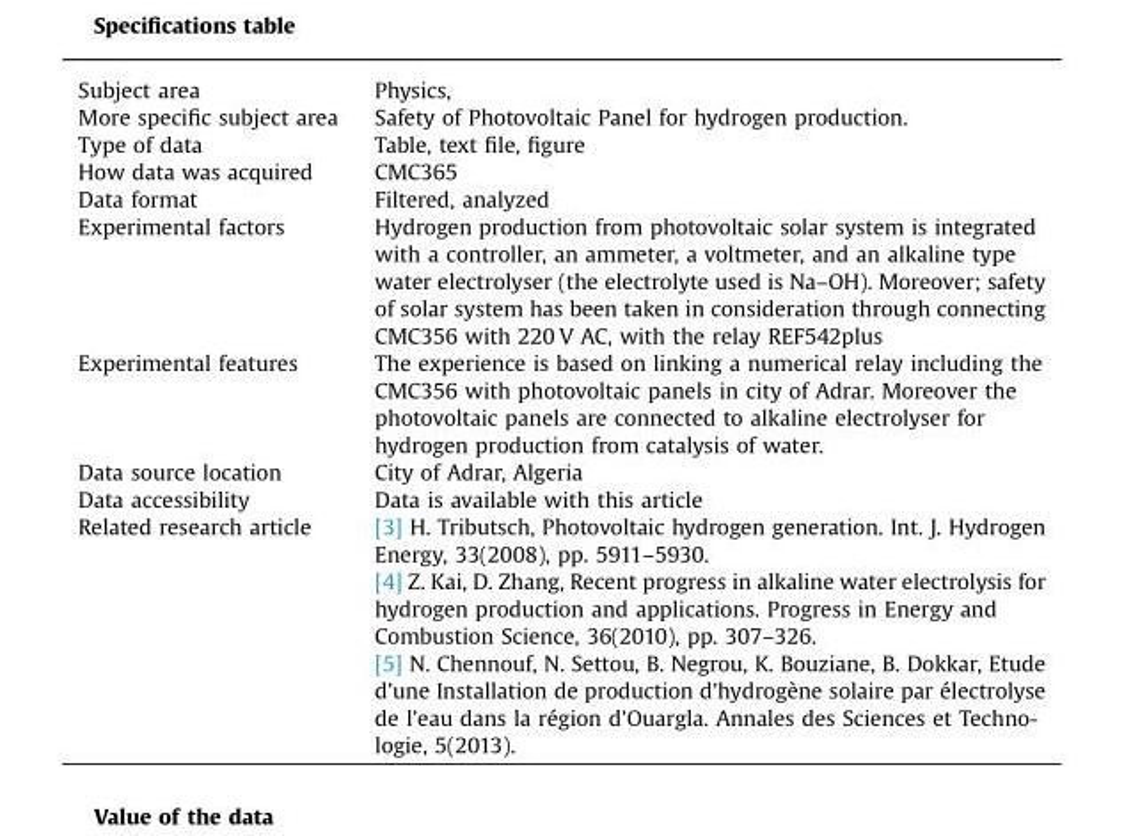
<table><tbody><tr><td>Subject area</td><td>Physics,</td></tr><tr><td>More specific subject area</td><td>Safety of Photovoltaic Panel for hydrogen production.</td></tr><tr><td>Type of data</td><td>Table, text file, figure</td></tr><tr><td>How data was acquired</td><td>CMC365</td></tr><tr><td>Data format</td><td>Filtered, analyzed</td></tr><tr><td>Experimental factors</td><td>Hydrogen production from photovoltaic solar system is integrated with a controller, an ammeter, a voltmeter, and an alkaline type water electrolyser (the electrolyte used is Na–OH). Moreover; safety of solar system has been taken in consideration through connecting CMC356 with 220 V AC, with the relay REF542plus</td></tr><tr><td>Experimental features</td><td>The experience is based on linking a numerical relay including the CMC356 with photovoltaic panels in city of Adrar. Moreover the photovoltaic panels are connected to alkaline electrolyser for hydrogen production from catalysis of water.</td></tr><tr><td>Data source location</td><td>City of Adrar, Algeria</td></tr><tr><td>Data accessibility</td><td>Data is available with this article</td></tr><tr><td rowspan="3">Related research article</td><td>[3] H. Tributsch, Photovoltaic hydrogen generation. Int. J. Hydrogen Energy, 33(2008), pp. 5911–5930.</td></tr><tr><td>[4] Z. Kai, D. Zhang, Recent progress in alkaline water electrolysis for hydrogen production and applications. Progress in Energy and Combustion Science, 36(2010), pp. 307–326.</td></tr><tr><td>[5] N. Chennouf, N. Settou, B. Negrou, K. Bouziane, B. Dokkar, Etude d’une Installation de production d’hydrogène solaire par électrolyse de l’eau dans la région d’Ouargla. Annales des Sciences et Techno- logie, 5(2013).</td></tr></tbody></table>